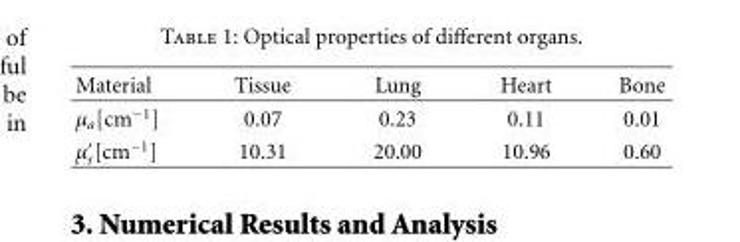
<table><thead><tr><td>Material</td><td>Tissue</td><td>Lung</td><td>Heart</td><td>Bone</td></tr></thead><tbody><tr><td>μ<sub>a</sub>[cm<sup>−1</sup>]</td><td>0.07</td><td>0.23</td><td>0.11</td><td>0.01</td></tr><tr><td>μ′ s[cm−1]</td><td>10.31</td><td>20.00</td><td>10.96</td><td>0.60</td></tr></tbody></table>